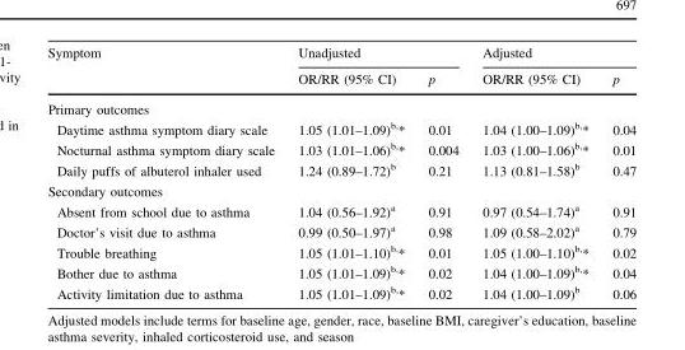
<table><thead><tr><td rowspan="2">Symptom</td><td colspan="2">Unadjusted</td><td colspan="2">Adjusted</td></tr><tr><td>OR/RR (95% CI)</td><td>p</td><td>OR/RR (95% CI)</td><td>p</td></tr></thead><tbody><tr><td colspan="5">Primary outcomes</td></tr><tr><td>Daytime asthma symptom diary scale</td><td>1.05 (1.01–1.09)<sup>b,</sup>*</td><td>0.01</td><td>1.04 (1.00–1.09)<sup>b,</sup>*</td><td>0.04</td></tr><tr><td>Nocturnal asthma symptom diary scale</td><td>1.03 (1.01–1.06)<sup>b,</sup>*</td><td>0.004</td><td>1.03 (1.00–1.06)<sup>b,</sup>*</td><td>0.01</td></tr><tr><td>Daily puffs of albuterol inhaler used</td><td>1.24 (0.89–1.72)<sup>b</sup></td><td>0.21</td><td>1.13 (0.81–1.58)<sup>b</sup></td><td>0.47</td></tr><tr><td colspan="5">Secondary outcomes</td></tr><tr><td>Absent from school due to asthma</td><td>1.04 (0.56–1.92)<sup>a</sup></td><td>0.91</td><td>0.97 (0.54–1.74)<sup>a</sup></td><td>0.91</td></tr><tr><td>Doctor’s visit due to asthma</td><td>0.99 (0.50–1.97)<sup>a</sup></td><td>0.98</td><td>1.09 (0.58–2.02)<sup>a</sup></td><td>0.79</td></tr><tr><td>Trouble breathing</td><td>1.05 (1.01–1.10)<sup>b,</sup>*</td><td>0.01</td><td>1.05 (1.00–1.10)<sup>b,</sup>*</td><td>0.02</td></tr><tr><td>Bother due to asthma</td><td>1.05 (1.01–1.09)<sup>b,</sup>*</td><td>0.02</td><td>1.04 (1.00–1.09)<sup>b,</sup>*</td><td>0.04</td></tr><tr><td>Activity limitation due to asthma</td><td>1.05 (1.01–1.09)<sup>b,</sup>*</td><td>0.02</td><td>1.04 (1.00–1.09)<sup>b</sup></td><td>0.06</td></tr></tbody></table>